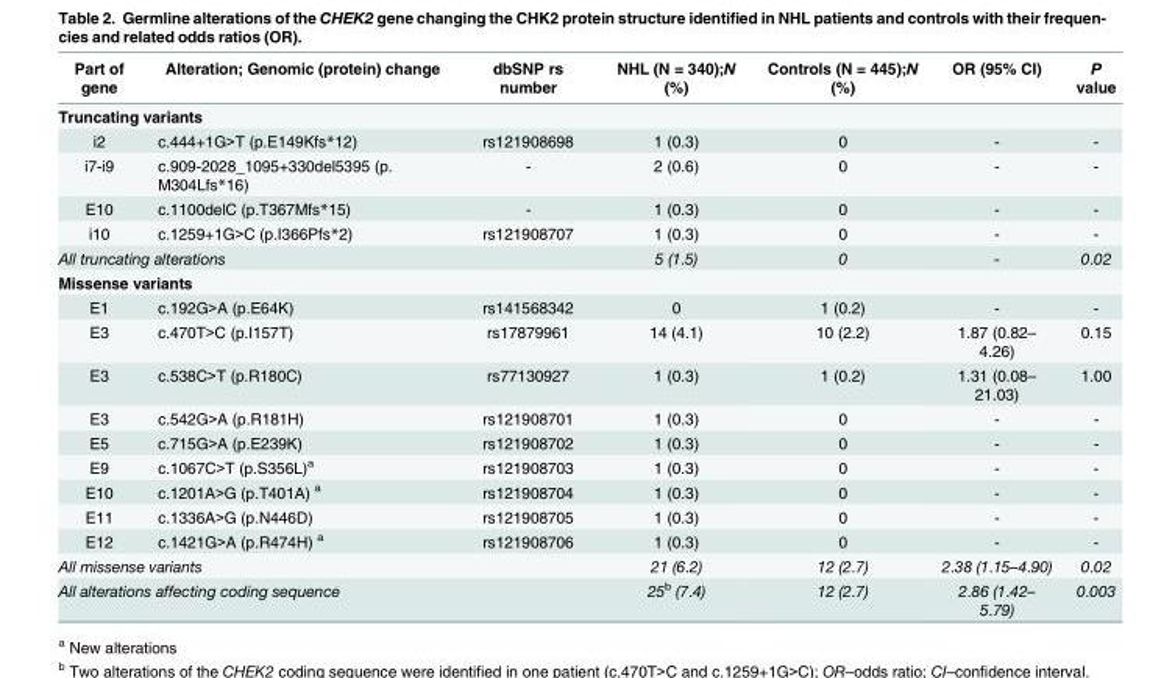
<table><thead><tr><td>Part of gene</td><td>Alteration; Genomic (protein) change</td><td>dbSNP rs number</td><td>NHL (N = 340);N (%)</td><td>Controls (N = 445);N (%)</td><td>OR (95% CI)</td><td>P value</td></tr></thead><tbody><tr><td colspan="7">Truncating variants</td></tr><tr><td>i2</td><td>c.444+1G&gt;T (p.E149Kfs*12)</td><td>rs121908698</td><td>1 (0.3)</td><td>0</td><td>-</td><td>-</td></tr><tr><td>i7-i9</td><td>c.909-2028_1095+330del5395 (p. M304Lfs*16)</td><td>-</td><td>2 (0.6)</td><td>0</td><td>-</td><td>-</td></tr><tr><td>E10</td><td>c.1100delC (p.T367Mfs*15)</td><td>-</td><td>1 (0.3)</td><td>0</td><td>-</td><td>-</td></tr><tr><td>i10</td><td>c.1259+1G&gt;C (p.I366Pfs*2)</td><td>rs121908707</td><td>1 (0.3)</td><td>0</td><td>-</td><td>-</td></tr><tr><td colspan="3">All truncating alterations</td><td>5 (1.5)</td><td>0</td><td>-</td><td>0.02</td></tr><tr><td colspan="7">Missense variants</td></tr><tr><td>E1</td><td>c.192G&gt;A (p.E64K)</td><td>rs141568342</td><td>0</td><td>1 (0.2)</td><td>-</td><td>-</td></tr><tr><td>E3</td><td>c.470T&gt;C (p.I157T)</td><td>rs17879961</td><td>14 (4.1)</td><td>10 (2.2)</td><td>1.87 (0.82– 4.26)</td><td>0.15</td></tr><tr><td>E3</td><td>c.538C&gt;T (p.R180C)</td><td>rs77130927</td><td>1 (0.3)</td><td>1 (0.2)</td><td>1.31 (0.08– 21.03)</td><td>1.00</td></tr><tr><td>E3</td><td>c.542G&gt;A (p.R181H)</td><td>rs121908701</td><td>1 (0.3)</td><td>0</td><td>-</td><td>-</td></tr><tr><td>E5</td><td>c.715G&gt;A (p.E239K)</td><td>rs121908702</td><td>1 (0.3)</td><td>0</td><td>-</td><td>-</td></tr><tr><td>E9</td><td>c.1067C&gt;T (p.S356L)<sup>a</sup></td><td>rs121908703</td><td>1 (0.3)</td><td>0</td><td>-</td><td>-</td></tr><tr><td>E10</td><td>c.1201A&gt;G (p.T401A) <sup>a</sup></td><td>rs121908704</td><td>1 (0.3)</td><td>0</td><td>-</td><td>-</td></tr><tr><td>E11</td><td>c.1336A&gt;G (p.N446D)</td><td>rs121908705</td><td>1 (0.3)</td><td>0</td><td>-</td><td>-</td></tr><tr><td>E12</td><td>c.1421G&gt;A (p.R474H) <sup>a</sup></td><td>rs121908706</td><td>1 (0.3)</td><td>0</td><td>-</td><td>-</td></tr><tr><td colspan="3">All missense variants</td><td>21 (6.2)</td><td>12 (2.7)</td><td>2.38 (1.15–4.90)</td><td>0.02</td></tr><tr><td colspan="3">All alterations affecting coding sequence</td><td>25<sup>b</sup> (7.4)</td><td>12 (2.7)</td><td>2.86 (1.42– 5.79)</td><td>0.003</td></tr></tbody></table>